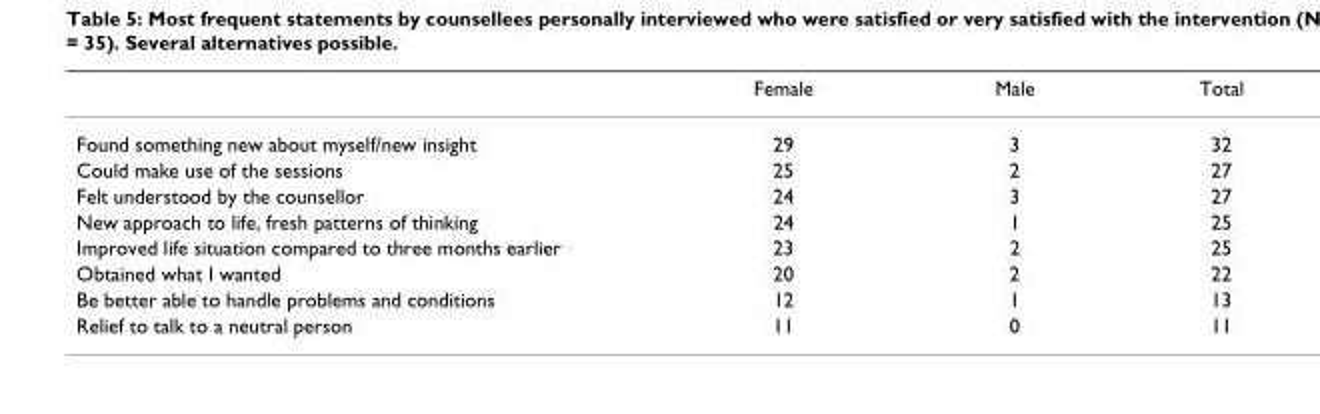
<table><thead><tr><td></td><td>Female</td><td>Male</td><td>Total</td></tr></thead><tbody><tr><td>Found something new about myself/new insight</td><td>29</td><td>3</td><td>32</td></tr><tr><td>Could make use of the sessions</td><td>25</td><td>2</td><td>27</td></tr><tr><td>Felt understood by the counsellor</td><td>24</td><td>3</td><td>27</td></tr><tr><td>New approach to life, fresh patterns of thinking</td><td>24</td><td>1</td><td>25</td></tr><tr><td>Improved life situation compared to three months earlier</td><td>23</td><td>2</td><td>25</td></tr><tr><td>Obtained what I wanted</td><td>20</td><td>2</td><td>22</td></tr><tr><td>Be better able to handle problems and conditions</td><td>12</td><td>1</td><td>13</td></tr><tr><td>Relief to talk to a neutral person</td><td>11</td><td>0</td><td>11</td></tr></tbody></table>